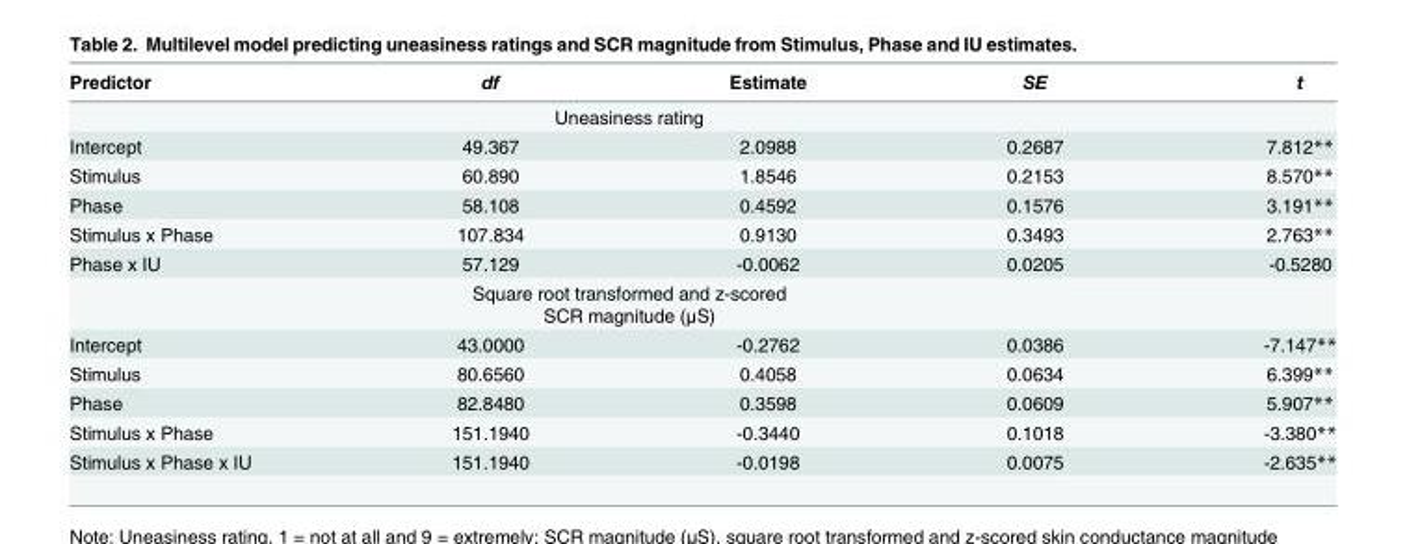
<table><thead><tr><td>Predictor</td><td>df</td><td>Estimate</td><td>SE</td><td>t</td></tr></thead><tbody><tr><td></td><td colspan="2">Uneasiness rating</td><td></td><td></td></tr><tr><td>Intercept</td><td>49.367</td><td>2.0988</td><td>0.2687</td><td>7.812**</td></tr><tr><td>Stimulus</td><td>60.890</td><td>1.8546</td><td>0.2153</td><td>8.570**</td></tr><tr><td>Phase</td><td>58.108</td><td>0.4592</td><td>0.1576</td><td>3.191**</td></tr><tr><td>Stimulus x Phase</td><td>107.834</td><td>0.9130</td><td>0.3493</td><td>2.763**</td></tr><tr><td rowspan="2">Phase x IU</td><td>57.129</td><td>-0.0062</td><td>0.0205</td><td>-0.5280</td></tr><tr><td colspan="2">Square root transformed and z-scored SCR magnitude (μS)</td><td></td><td></td></tr><tr><td>Intercept</td><td>43.0000</td><td>-0.2762</td><td>0.0386</td><td>-7.147**</td></tr><tr><td>Stimulus</td><td>80.6560</td><td>0.4058</td><td>0.0634</td><td>6.399**</td></tr><tr><td>Phase</td><td>82.8480</td><td>0.3598</td><td>0.0609</td><td>5.907**</td></tr><tr><td>Stimulus x Phase</td><td>151.1940</td><td>-0.3440</td><td>0.1018</td><td>-3.380**</td></tr><tr><td>Stimulus x Phase x IU</td><td>151.1940</td><td>-0.0198</td><td>0.0075</td><td>-2.635**</td></tr></tbody></table>